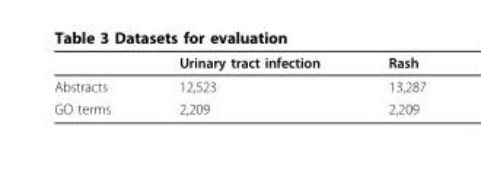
<table><thead><tr><td></td><td>Urinary tract infection</td><td>Rash</td></tr></thead><tbody><tr><td>Abstracts</td><td>12,523</td><td>13,287</td></tr><tr><td>GO terms</td><td>2,209</td><td>2,209</td></tr></tbody></table>